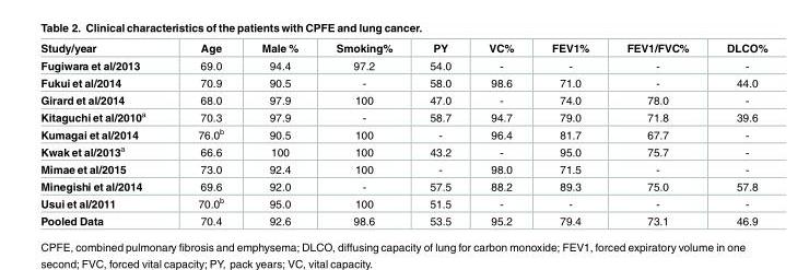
<table><thead><tr><td>Study/year</td><td>Age</td><td>Male %</td><td>Smoking%</td><td>PY</td><td>VC%</td><td>FEV1%</td><td>FEV1/FVC%</td><td>DLCO%</td></tr></thead><tbody><tr><td>Fugiwara et al/2013</td><td>69.0</td><td>94.4</td><td>97.2</td><td>54.0</td><td>-</td><td>-</td><td>-</td><td>-</td></tr><tr><td>Fukui et al/2014</td><td>70.9</td><td>90.5</td><td>-</td><td>58.0</td><td>98.6</td><td>71.0</td><td>-</td><td>44.0</td></tr><tr><td>Girard et al/2014</td><td>68.0</td><td>97.9</td><td>100</td><td>47.0</td><td>-</td><td>74.0</td><td>78.0</td><td>-</td></tr><tr><td>Kitaguchi et al/2010<sup>a</sup></td><td>70.3</td><td>97.9</td><td>-</td><td>58.7</td><td>94.7</td><td>79.0</td><td>71.8</td><td>39.6</td></tr><tr><td>Kumagai et al/2014</td><td>76.0<sup>b</sup></td><td>90.5</td><td>100</td><td>-</td><td>96.4</td><td>81.7</td><td>67.7</td><td>-</td></tr><tr><td>Kwak et al/2013<sup>a</sup></td><td>66.6</td><td>100</td><td>100</td><td>43.2</td><td>-</td><td>95.0</td><td>75.7</td><td>-</td></tr><tr><td>Mimae et al/2015</td><td>73.0</td><td>92.4</td><td>100</td><td>-</td><td>98.0</td><td>71.5</td><td>-</td><td>-</td></tr><tr><td>Minegishi et al/2014</td><td>69.6</td><td>92.0</td><td>-</td><td>57.5</td><td>88.2</td><td>89.3</td><td>75.0</td><td>57.8</td></tr><tr><td>Usui et al/2011</td><td>70.0<sup>b</sup></td><td>95.0</td><td>100</td><td>51.5</td><td>-</td><td>-</td><td>-</td><td>-</td></tr><tr><td>Pooled Data</td><td>70.4</td><td>92.6</td><td>98.6</td><td>53.5</td><td>95.2</td><td>79.4</td><td>73.1</td><td>46.9</td></tr></tbody></table>